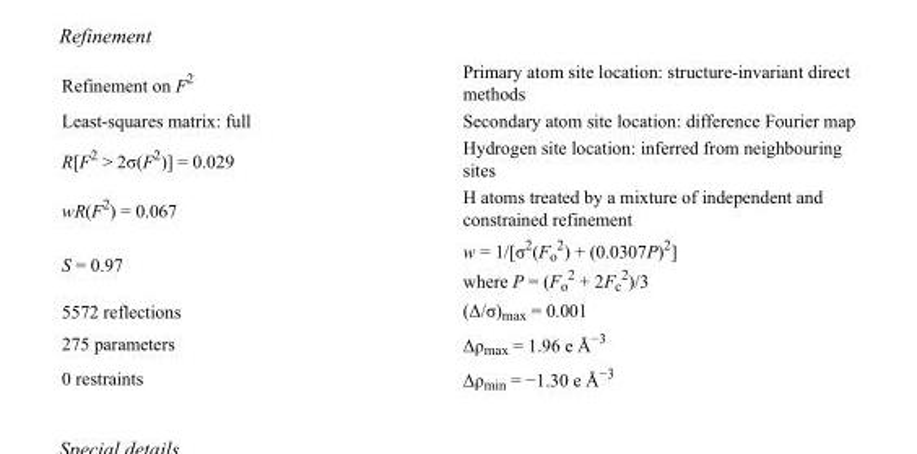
<table><tbody><tr><td>Refinement on F<sup>2</sup></td><td>Primary atom site location: structure-invariant direct methods</td></tr><tr><td>Least-squares matrix: full</td><td>Secondary atom site location: difference Fourier map</td></tr><tr><td>R[F<sup>2</sup> &gt; 2σ(F<sup>2</sup>)] = 0.029</td><td>Hydrogen site location: inferred from neighbouring sites</td></tr><tr><td>wR(F<sup>2</sup>) = 0.067</td><td>H atoms treated by a mixture of independent and constrained refinement</td></tr><tr><td>S = 0.97</td><td>w = 1/[σ<sup>2</sup>(F<sub>o</sub> <sup>2</sup>) + (0.0307P)<sup>2</sup>] where P = (F<sub>o</sub> <sup>2</sup> + 2F<sub>c</sub> <sup>2</sup>)/3</td></tr><tr><td>5572 reflections</td><td>(Δ/σ)<sub>max</sub> = 0.001</td></tr><tr><td>275 parameters</td><td>Δρ<sub>max</sub> = 1.96 e Å<sup>−3</sup></td></tr><tr><td>0 restraints</td><td>Δρ<sub>min</sub> = −1.30 e Å<sup>−3</sup></td></tr></tbody></table>